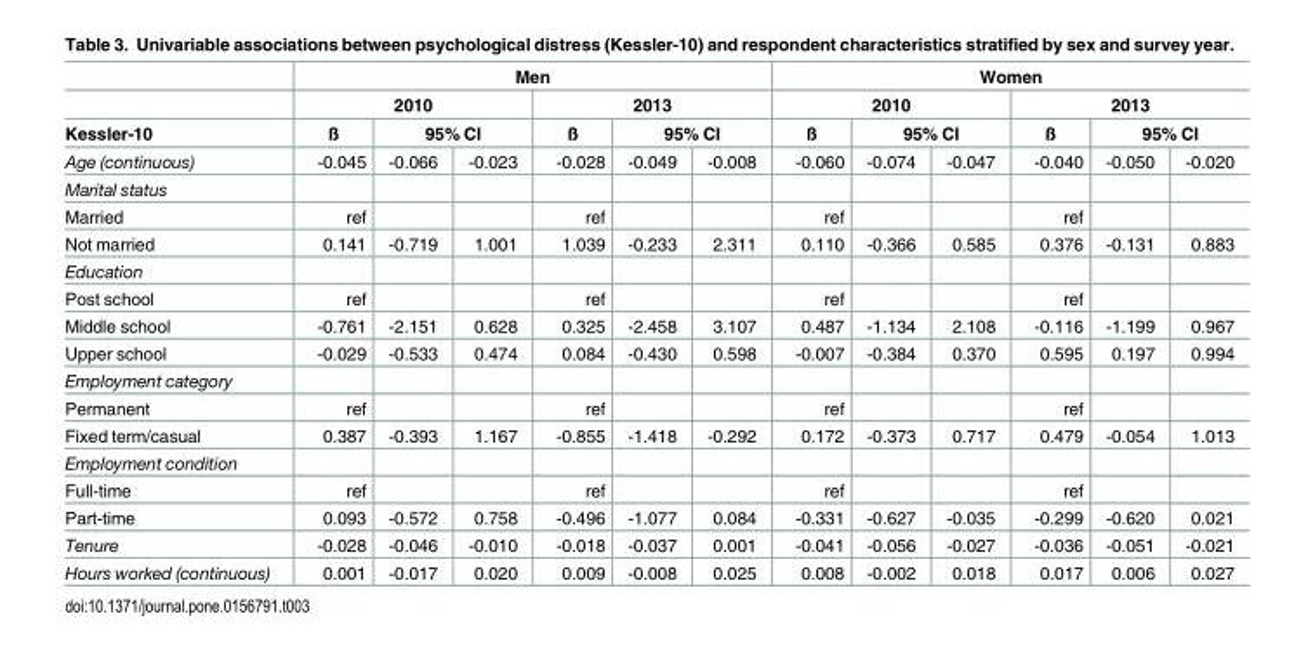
<table><thead><tr><td rowspan="4">Kessler-10 Age (continuous)</td><td colspan="6">Men</td><td colspan="6">Women</td></tr><tr><td colspan="3">2010</td><td colspan="3">2013</td><td colspan="3">2010</td><td colspan="3">2013</td></tr><tr><td rowspan="2">ß -0.045</td><td colspan="2">95% CI</td><td rowspan="2">ß -0.028</td><td colspan="2">95% CI</td><td rowspan="2">ß -0.060</td><td colspan="2">95% CI</td><td rowspan="2">ß -0.040</td><td colspan="2">95% CI</td></tr><tr><td>-0.066</td><td>-0.023</td><td>-0.049</td><td>-0.008</td><td>-0.074</td><td>-0.047</td><td>-0.050</td><td>-0.020</td></tr></thead><tbody><tr><td colspan="13">Marital status</td></tr><tr><td>Married</td><td>ref</td><td></td><td></td><td>ref</td><td></td><td></td><td>ref</td><td></td><td></td><td>ref</td><td></td><td></td></tr><tr><td>Not married</td><td>0.141</td><td>-0.719</td><td>1.001</td><td>1.039</td><td>-0.233</td><td>2.311</td><td>0.110</td><td>-0.366</td><td>0.585</td><td>0.376</td><td>-0.131</td><td>0.883</td></tr><tr><td colspan="13">Education</td></tr><tr><td>Post school</td><td>ref</td><td></td><td></td><td>ref</td><td></td><td></td><td>ref</td><td></td><td></td><td>ref</td><td></td><td></td></tr><tr><td>Middle school</td><td>-0.761</td><td>-2.151</td><td>0.628</td><td>0.325</td><td>-2.458</td><td>3.107</td><td>0.487</td><td>-1.134</td><td>2.108</td><td>-0.116</td><td>-1.199</td><td>0.967</td></tr><tr><td>Upper school</td><td>-0.029</td><td>-0.533</td><td>0.474</td><td>0.084</td><td>-0.430</td><td>0.598</td><td>-0.007</td><td>-0.384</td><td>0.370</td><td>0.595</td><td>0.197</td><td>0.994</td></tr><tr><td colspan="13">Employment category</td></tr><tr><td>Permanent</td><td>ref</td><td></td><td></td><td>ref</td><td></td><td></td><td>ref</td><td></td><td></td><td>ref</td><td></td><td></td></tr><tr><td>Fixed term/casual</td><td>0.387</td><td>-0.393</td><td>1.167</td><td>-0.855</td><td>-1.418</td><td>-0.292</td><td>0.172</td><td>-0.373</td><td>0.717</td><td>0.479</td><td>-0.054</td><td>1.013</td></tr><tr><td colspan="13">Employment condition</td></tr><tr><td>Full-time</td><td>ref</td><td></td><td></td><td>ref</td><td></td><td></td><td>ref</td><td></td><td></td><td>ref</td><td></td><td></td></tr><tr><td>Part-time</td><td>0.093</td><td>-0.572</td><td>0.758</td><td>-0.496</td><td>-1.077</td><td>0.084</td><td>-0.331</td><td>-0.627</td><td>-0.035</td><td>-0.299</td><td>-0.620</td><td>0.021</td></tr><tr><td>Tenure</td><td>-0.028</td><td>-0.046</td><td>-0.010</td><td>-0.018</td><td>-0.037</td><td>0.001</td><td>-0.041</td><td>-0.056</td><td>-0.027</td><td>-0.036</td><td>-0.051</td><td>-0.021</td></tr><tr><td>Hours worked (continuous)</td><td>0.001</td><td>-0.017</td><td>0.020</td><td>0.009</td><td>-0.008</td><td>0.025</td><td>0.008</td><td>-0.002</td><td>0.018</td><td>0.017</td><td>0.006</td><td>0.027</td></tr></tbody></table>